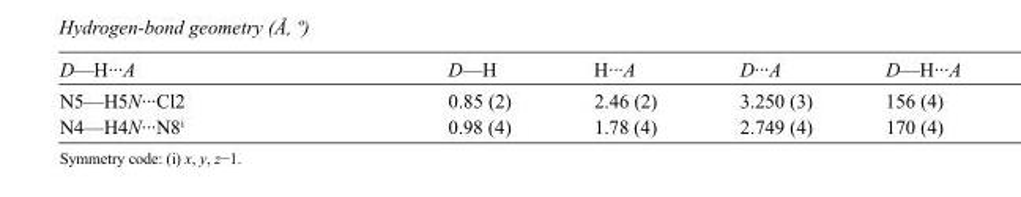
<table><tbody><tr><td>D—H···A</td><td>D—H</td><td>H···A</td><td>D···A</td><td>D—H···A</td></tr><tr><td>N5—H5N···Cl2</td><td>0.85 (2)</td><td>2.46 (2)</td><td>3.250 (3)</td><td>156 (4)</td></tr><tr><td>N4—H4N···N8<sup>i</sup></td><td>0.98 (4)</td><td>1.78 (4)</td><td>2.749 (4)</td><td>170 (4)</td></tr></tbody></table>